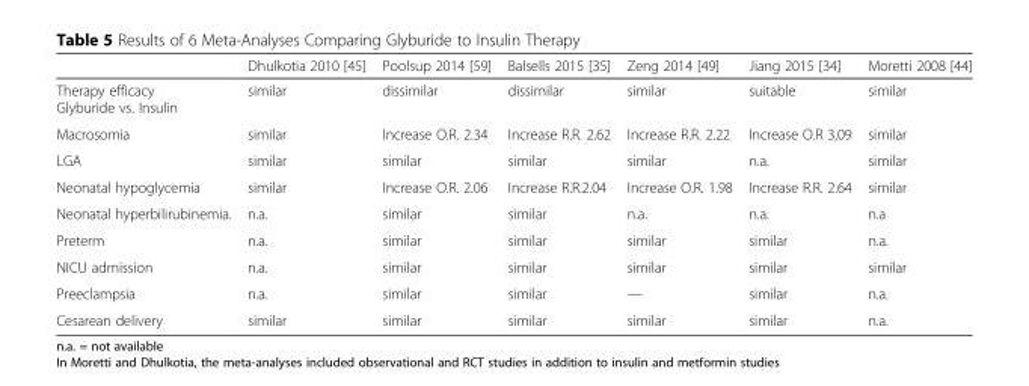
<table><thead><tr><td></td><td>Dhulkotia 2010 [45]</td><td>Poolsup 2014 [59]</td><td>Balsells 2015 [35]</td><td>Zeng 2014 [49]</td><td>Jiang 2015 [34]</td><td>Moretti 2008 [44]</td></tr></thead><tbody><tr><td>Therapy efficacy Glyburide vs. Insulin</td><td>similar</td><td>dissimilar</td><td>dissimilar</td><td>similar</td><td>suitable</td><td>similar</td></tr><tr><td>Macrosomia</td><td>similar</td><td>Increase O.R. 2.34</td><td>Increase R.R. 2.62</td><td>Increase R.R. 2.22</td><td>Increase O.R 3,09</td><td>similar</td></tr><tr><td>LGA</td><td>similar</td><td>similar</td><td>similar</td><td>similar</td><td>n.a.</td><td>similar</td></tr><tr><td>Neonatal hypoglycemia</td><td>similar</td><td>Increase O.R. 2.06</td><td>Increase R.R.2.04</td><td>Increase O.R. 1.98</td><td>Increase R.R. 2.64</td><td>similar</td></tr><tr><td>Neonatal hyperbilirubinemia.</td><td>n.a.</td><td>similar</td><td>similar</td><td>n.a.</td><td>n.a.</td><td>n.a</td></tr><tr><td>Preterm</td><td>n.a.</td><td>similar</td><td>similar</td><td>similar</td><td>similar</td><td>n.a.</td></tr><tr><td>NICU admission</td><td>n.a.</td><td>similar</td><td>similar</td><td>similar</td><td>similar</td><td>similar</td></tr><tr><td>Preeclampsia</td><td>n.a.</td><td>similar</td><td>similar</td><td>—</td><td>similar</td><td>n.a.</td></tr><tr><td>Cesarean delivery</td><td>similar</td><td>similar</td><td>similar</td><td>similar</td><td>similar</td><td>n.a.</td></tr></tbody></table>